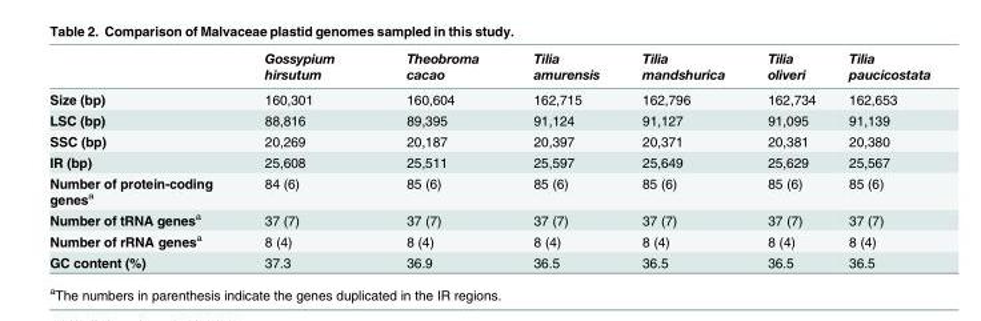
<table><thead><tr><td></td><td>Gossypium hirsutum</td><td>Theobroma cacao</td><td>Tilia amurensis</td><td>Tilia mandshurica</td><td>Tilia oliveri</td><td>Tilia paucicostata</td></tr></thead><tbody><tr><td>Size (bp)</td><td>160,301</td><td>160,604</td><td>162,715</td><td>162,796</td><td>162,734</td><td>162,653</td></tr><tr><td>LSC (bp)</td><td>88,816</td><td>89,395</td><td>91,124</td><td>91,127</td><td>91,095</td><td>91,139</td></tr><tr><td>SSC (bp)</td><td>20,269</td><td>20,187</td><td>20,397</td><td>20,371</td><td>20,381</td><td>20,380</td></tr><tr><td>IR (bp)</td><td>25,608</td><td>25,511</td><td>25,597</td><td>25,649</td><td>25,629</td><td>25,567</td></tr><tr><td>Number of protein-coding genes<sup>a</sup></td><td>84 (6)</td><td>85 (6)</td><td>85 (6)</td><td>85 (6)</td><td>85 (6)</td><td>85 (6)</td></tr><tr><td>Number of tRNA genes<sup>a</sup></td><td>37 (7)</td><td>37 (7)</td><td>37 (7)</td><td>37 (7)</td><td>37 (7)</td><td>37 (7)</td></tr><tr><td>Number of rRNA genes<sup>a</sup></td><td>8 (4)</td><td>8 (4)</td><td>8 (4)</td><td>8 (4)</td><td>8 (4)</td><td>8 (4)</td></tr><tr><td>GC content (%)</td><td>37.3</td><td>36.9</td><td>36.5</td><td>36.5</td><td>36.5</td><td>36.5</td></tr></tbody></table>